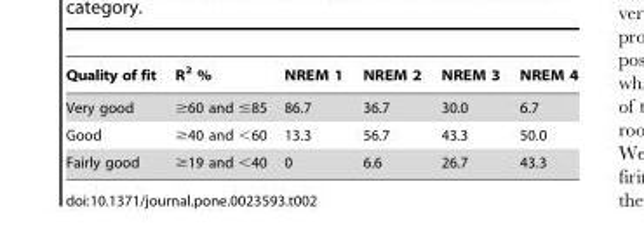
<table><thead><tr><td>Quality of fit</td><td>R<sup>2</sup> %</td><td>NREM 1</td><td>NREM 2</td><td>NREM 3</td><td>NREM 4</td></tr></thead><tbody><tr><td>Very good</td><td>≥60 and ≤85</td><td>86.7</td><td>36.7</td><td>30.0</td><td>6.7</td></tr><tr><td>Good</td><td>≥40 and &lt;60</td><td>13.3</td><td>56.7</td><td>43.3</td><td>50.0</td></tr><tr><td>Fairly good</td><td>≥19 and &lt;40</td><td>0</td><td>6.6</td><td>26.7</td><td>43.3</td></tr></tbody></table>